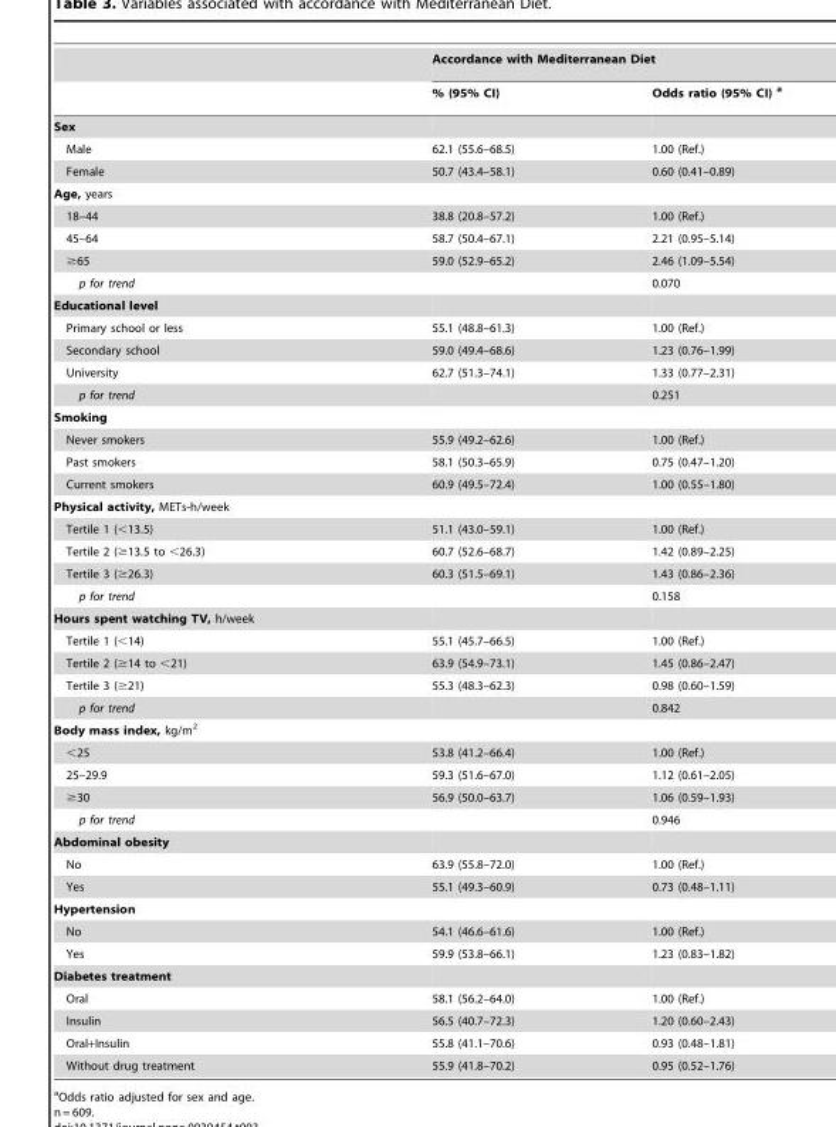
<table><thead><tr><td rowspan="2"></td><td colspan="2">Accordance with Mediterranean Diet</td></tr><tr><td>% (95% CI)</td><td>Odds ratio (95% CI) a</td></tr></thead><tbody><tr><td colspan="3">Sex</td></tr><tr><td>Male</td><td>62.1 (55.6–68.5)</td><td>1.00 (Ref.)</td></tr><tr><td>Female</td><td>50.7 (43.4–58.1)</td><td>0.60 (0.41–0.89)</td></tr><tr><td colspan="3">Age, years</td></tr><tr><td>18–44</td><td>38.8 (20.8–57.2)</td><td>1.00 (Ref.)</td></tr><tr><td>45–64</td><td>58.7 (50.4–67.1)</td><td>2.21 (0.95–5.14)</td></tr><tr><td>≥65</td><td>59.0 (52.9–65.2)</td><td>2.46 (1.09–5.54)</td></tr><tr><td>p for trend</td><td></td><td>0.070</td></tr><tr><td colspan="3">Educational level</td></tr><tr><td>Primary school or less</td><td>55.1 (48.8–61.3)</td><td>1.00 (Ref.)</td></tr><tr><td>Secondary school</td><td>59.0 (49.4–68.6)</td><td>1.23 (0.76–1.99)</td></tr><tr><td>University</td><td>62.7 (51.3–74.1)</td><td>1.33 (0.77–2.31)</td></tr><tr><td>p for trend</td><td></td><td>0.251</td></tr><tr><td colspan="3">Smoking</td></tr><tr><td>Never smokers</td><td>55.9 (49.2–62.6)</td><td>1.00 (Ref.)</td></tr><tr><td>Past smokers</td><td>58.1 (50.3–65.9)</td><td>0.75 (0.47–1.20)</td></tr><tr><td>Current smokers</td><td>60.9 (49.5–72.4)</td><td>1.00 (0.55–1.80)</td></tr><tr><td colspan="3">Physical activity, METs-h/week</td></tr><tr><td>Tertile 1 (&lt;13.5)</td><td>51.1 (43.0–59.1)</td><td>1.00 (Ref.)</td></tr><tr><td>Tertile 2 (≥13.5 to &lt;26.3)</td><td>60.7 (52.6–68.7)</td><td>1.42 (0.89–2.25)</td></tr><tr><td>Tertile 3 (≥26.3)</td><td>60.3 (51.5–69.1)</td><td>1.43 (0.86–2.36)</td></tr><tr><td>p for trend</td><td></td><td>0.158</td></tr><tr><td colspan="3">Hours spent watching TV, h/week</td></tr><tr><td>Tertile 1 (&lt;14)</td><td>55.1 (45.7–66.5)</td><td>1.00 (Ref.)</td></tr><tr><td>Tertile 2 (≥14 to &lt;21)</td><td>63.9 (54.9–73.1)</td><td>1.45 (0.86–2.47)</td></tr><tr><td>Tertile 3 (≥21)</td><td>55.3 (48.3–62.3)</td><td>0.98 (0.60–1.59)</td></tr><tr><td>p for trend</td><td></td><td>0.842</td></tr><tr><td colspan="3">Body mass index, kg/m<sup>2</sup></td></tr><tr><td>&lt;25</td><td>53.8 (41.2–66.4)</td><td>1.00 (Ref.)</td></tr><tr><td>25–29.9</td><td>59.3 (51.6–67.0)</td><td>1.12 (0.61–2.05)</td></tr><tr><td>≥30</td><td>56.9 (50.0–63.7)</td><td>1.06 (0.59–1.93)</td></tr><tr><td>p for trend</td><td></td><td>0.946</td></tr><tr><td colspan="3">Abdominal obesity</td></tr><tr><td>No</td><td>63.9 (55.8–72.0)</td><td>1.00 (Ref.)</td></tr><tr><td>Yes</td><td>55.1 (49.3–60.9)</td><td>0.73 (0.48–1.11)</td></tr><tr><td colspan="3">Hypertension</td></tr><tr><td>No</td><td>54.1 (46.6–61.6)</td><td>1.00 (Ref.)</td></tr><tr><td>Yes</td><td>59.9 (53.8–66.1)</td><td>1.23 (0.83–1.82)</td></tr><tr><td colspan="3">Diabetes treatment</td></tr><tr><td>Oral</td><td>58.1 (56.2–64.0)</td><td>1.00 (Ref.)</td></tr><tr><td>Insulin</td><td>56.5 (40.7–72.3)</td><td>1.20 (0.60–2.43)</td></tr><tr><td>Oral+Insulin</td><td>55.8 (41.1–70.6)</td><td>0.93 (0.48–1.81)</td></tr><tr><td>Without drug treatment</td><td>55.9 (41.8–70.2)</td><td>0.95 (0.52–1.76)</td></tr></tbody></table>